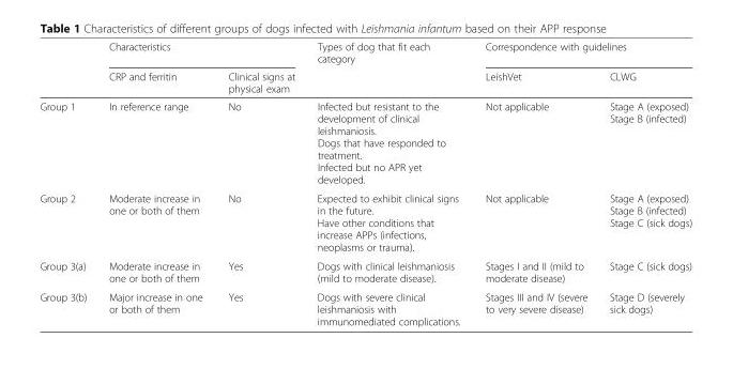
<table><thead><tr><td rowspan="2"></td><td colspan="2">Characteristics</td><td rowspan="2">Types of dog that fit each category</td><td colspan="2">Correspondence with guidelines</td></tr><tr><td>CRP and ferritin</td><td>Clinical signs at physical exam</td><td>LeishVet</td><td>CLWG</td></tr></thead><tbody><tr><td>Group 1</td><td>In reference range</td><td>No</td><td>Infected but resistant to the development of clinical leishmaniosis. Dogs that have responded to treatment. Infected but no APR yet developed.</td><td>Not applicable</td><td>Stage A (exposed) Stage B (infected)</td></tr><tr><td>Group 2</td><td>Moderate increase in one or both of them</td><td>No</td><td>Expected to exhibit clinical signs in the future. Have other conditions that increase APPs (infections, neoplasms or trauma).</td><td>Not applicable</td><td>Stage A (exposed) Stage B (infected) Stage C (sick dogs)</td></tr><tr><td>Group 3(a)</td><td>Moderate increase in one or both of them</td><td>Yes</td><td>Dogs with clinical leishmaniosis (mild to moderate disease).</td><td>Stages I and II (mild to moderate disease)</td><td>Stage C (sick dogs)</td></tr><tr><td>Group 3(b)</td><td>Major increase in one or both of them</td><td>Yes</td><td>Dogs with severe clinical leishmaniosis with immunomediated complications.</td><td>Stages III and IV (severe to very severe disease)</td><td>Stage D (severely sick dogs)</td></tr></tbody></table>